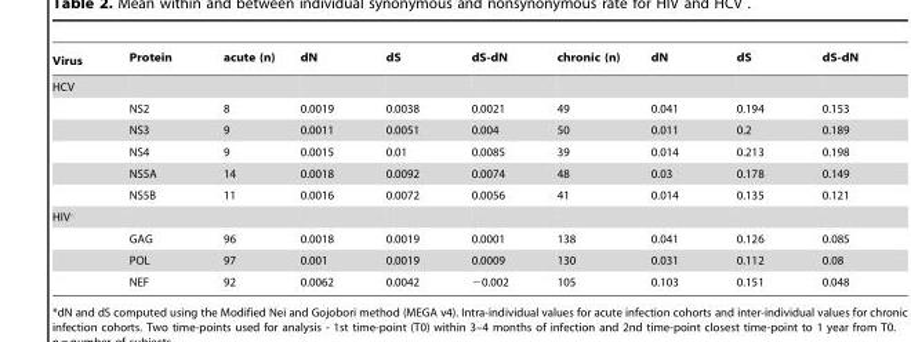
<table><thead><tr><td>Virus</td><td>Protein</td><td>acute (n)</td><td>dN</td><td>dS</td><td>dS-dN</td><td>chronic (n)</td><td>dN</td><td>dS</td><td>dS-dN</td></tr></thead><tbody><tr><td colspan="10">HCV</td></tr><tr><td></td><td>NS2</td><td>8</td><td>0.0019</td><td>0.0038</td><td>0.0021</td><td>49</td><td>0.041</td><td>0.194</td><td>0.153</td></tr><tr><td></td><td>NS3</td><td>9</td><td>0.0011</td><td>0.0051</td><td>0.004</td><td>50</td><td>0.011</td><td>0.2</td><td>0.189</td></tr><tr><td></td><td>NS4</td><td>9</td><td>0.0015</td><td>0.01</td><td>0.0085</td><td>39</td><td>0.014</td><td>0.213</td><td>0.198</td></tr><tr><td></td><td>NS5A</td><td>14</td><td>0.0018</td><td>0.0092</td><td>0.0074</td><td>48</td><td>0.03</td><td>0.178</td><td>0.149</td></tr><tr><td></td><td>NS5B</td><td>11</td><td>0.0016</td><td>0.0072</td><td>0.0056</td><td>41</td><td>0.014</td><td>0.135</td><td>0.121</td></tr><tr><td colspan="10">HIV‘</td></tr><tr><td></td><td>GAG</td><td>96</td><td>0.0018</td><td>0.0019</td><td>0.0001</td><td>138</td><td>0.041</td><td>0.126</td><td>0.085</td></tr><tr><td></td><td>POL</td><td>97</td><td>0.001</td><td>0.0019</td><td>0.0009</td><td>130</td><td>0.031</td><td>0.112</td><td>0.08</td></tr><tr><td></td><td>NEF</td><td>92</td><td>0.0062</td><td>0.0042</td><td>−0.002</td><td>105</td><td>0.103</td><td>0.151</td><td>0.048</td></tr></tbody></table>